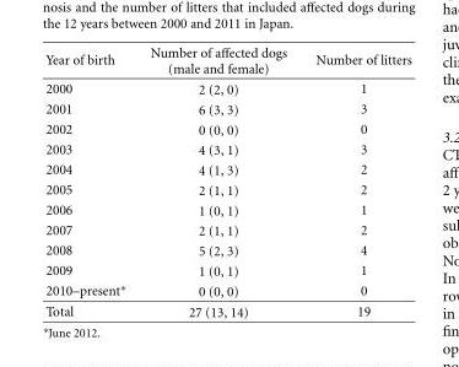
<table><thead><tr><td>Year of birth</td><td>Number of affected dogs (male and female)</td><td>Number of litters</td></tr></thead><tbody><tr><td>2000</td><td>2 (2, 0)</td><td>1</td></tr><tr><td>2001</td><td>6 (3, 3)</td><td>3</td></tr><tr><td>2002</td><td>0 (0, 0)</td><td>0</td></tr><tr><td>2003</td><td>4 (3, 1)</td><td>3</td></tr><tr><td>2004</td><td>4 (1, 3)</td><td>2</td></tr><tr><td>2005</td><td>2 (1, 1)</td><td>2</td></tr><tr><td>2006</td><td>1 (0, 1)</td><td>1</td></tr><tr><td>2007</td><td>2 (1, 1)</td><td>2</td></tr><tr><td>2008</td><td>5 (2, 3)</td><td>4</td></tr><tr><td>2009</td><td>1 (0, 1)</td><td>1</td></tr><tr><td>2010–present∗</td><td>0 (0, 0)</td><td>0</td></tr><tr><td>Total</td><td>27 (13, 14)</td><td>19</td></tr></tbody></table>